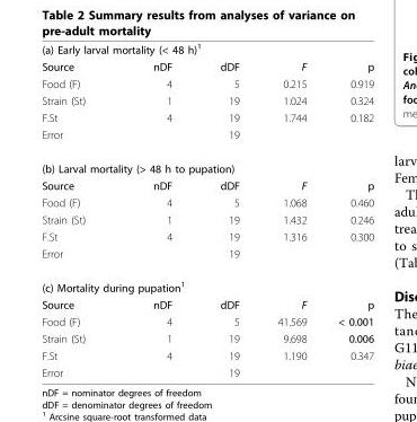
<table><tbody><tr><td colspan="5">(a) Early larval mortality (&lt; 48 h)<sup>1</sup></td></tr><tr><td>Source</td><td>nDF</td><td>dDF</td><td>F</td><td>p</td></tr><tr><td>Food (F)</td><td>4</td><td>5</td><td>0.215</td><td>0.919</td></tr><tr><td>Strain (St)</td><td>1</td><td>19</td><td>1.024</td><td>0.324</td></tr><tr><td>F.St</td><td>4</td><td>19</td><td>1.744</td><td>0.182</td></tr><tr><td>Error</td><td></td><td>19</td><td></td><td></td></tr><tr><td colspan="5">(b) Larval mortality (&gt; 48 h to pupation)</td></tr><tr><td>Source</td><td>nDF</td><td>dDF</td><td>F</td><td>p</td></tr><tr><td>Food (F)</td><td>4</td><td>5</td><td>1.068</td><td>0.460</td></tr><tr><td>Strain (St)</td><td>1</td><td>19</td><td>1.432</td><td>0.246</td></tr><tr><td>F.St</td><td>4</td><td>19</td><td>1.316</td><td>0.300</td></tr><tr><td>Error</td><td></td><td>19</td><td></td><td></td></tr><tr><td colspan="5">(c) Mortality during pupation<sup>1</sup></td></tr><tr><td>Source</td><td>nDF</td><td>dDF</td><td>F</td><td>p</td></tr><tr><td>Food (F)</td><td>4</td><td>5</td><td>41.569</td><td>&lt; 0.001</td></tr><tr><td>Strain (St)</td><td>1</td><td>19</td><td>9.698</td><td>0.006</td></tr><tr><td>F.St</td><td>4</td><td>19</td><td>1.190</td><td>0.347</td></tr><tr><td>Error</td><td></td><td>19</td><td></td><td></td></tr></tbody></table>